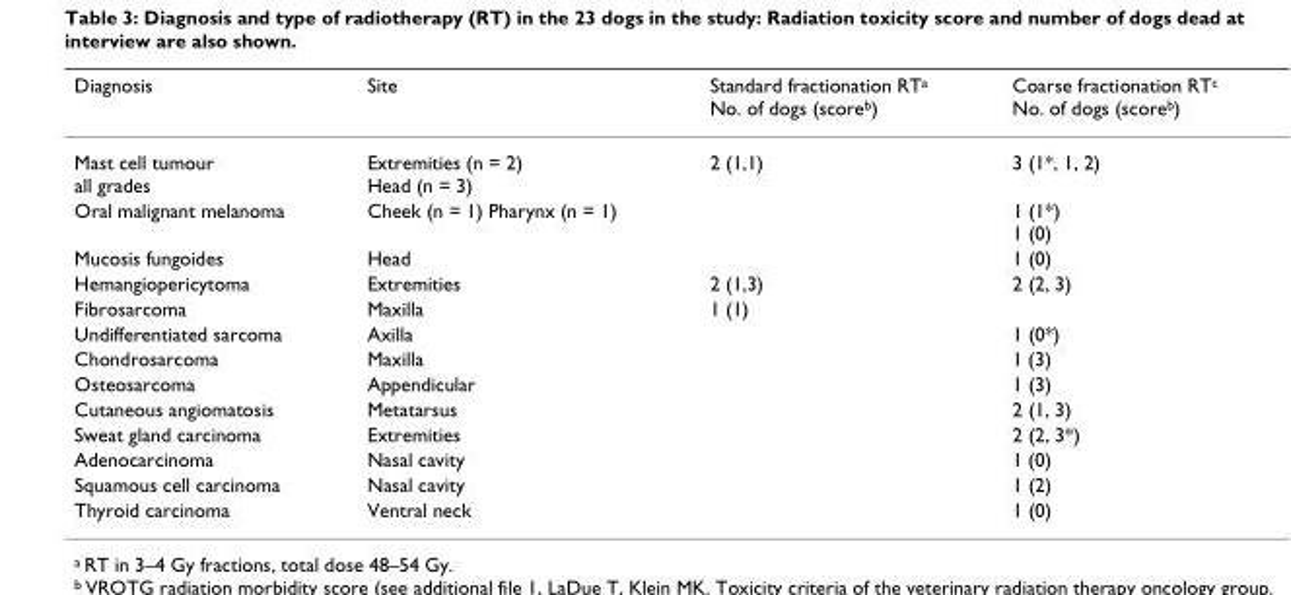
<table><thead><tr><td>Diagnosis</td><td>Site</td><td>Standard fractionation RT<sup>a</sup> No. of dogs (score<sup>b</sup>)</td><td>Coarse fractionation RT<sup>c</sup> No. of dogs (score<sup>b</sup>)</td></tr></thead><tbody><tr><td>Mast cell tumour all grades</td><td>Extremities (n = 2) Head (n = 3)</td><td>2 (1,1)</td><td>3 (1*, 1, 2)</td></tr><tr><td>Oral malignant melanoma</td><td>Cheek (n = 1) Pharynx (n = 1)</td><td></td><td>1 (1*) 1 (0)</td></tr><tr><td>Mucosis fungoides</td><td>Head</td><td></td><td>1 (0)</td></tr><tr><td>Hemangiopericytoma</td><td>Extremities</td><td>2 (1,3)</td><td>2 (2, 3)</td></tr><tr><td>Fibrosarcoma</td><td>Maxilla</td><td>1 (1)</td><td></td></tr><tr><td>Undifferentiated sarcoma</td><td>Axilla</td><td></td><td>1 (0*)</td></tr><tr><td>Chondrosarcoma</td><td>Maxilla</td><td></td><td>1 (3)</td></tr><tr><td>Osteosarcoma</td><td>Appendicular</td><td></td><td>1 (3)</td></tr><tr><td>Cutaneous angiomatosis</td><td>Metatarsus</td><td></td><td>2 (1, 3)</td></tr><tr><td>Sweat gland carcinoma</td><td>Extremities</td><td></td><td>2 (2, 3*)</td></tr><tr><td>Adenocarcinoma</td><td>Nasal cavity</td><td></td><td>1 (0)</td></tr><tr><td>Squamous cell carcinoma</td><td>Nasal cavity</td><td></td><td>1 (2)</td></tr><tr><td>Thyroid carcinoma</td><td>Ventral neck</td><td></td><td>1 (0)</td></tr></tbody></table>